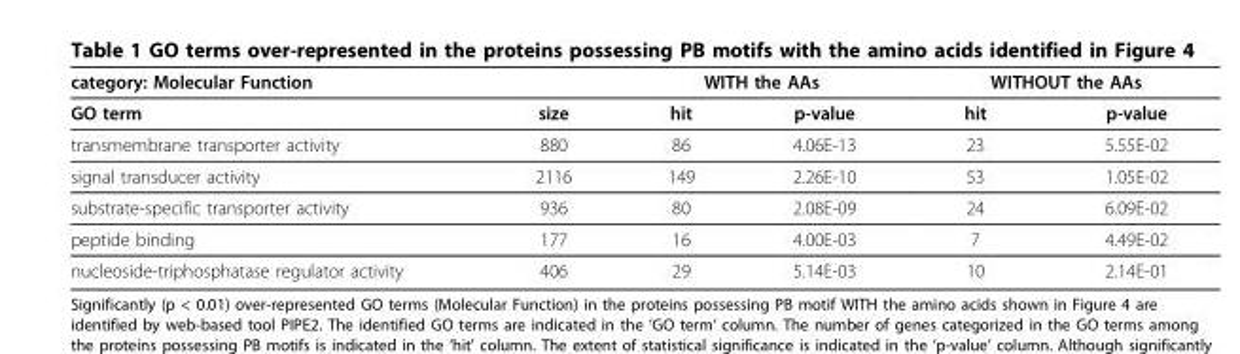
<table><tbody><tr><td>category: Molecular Function</td><td></td><td colspan="2">WITH the AAs</td><td colspan="2">WITHOUT the AAs</td></tr><tr><td>GO term</td><td>size</td><td>hit</td><td>p-value</td><td>hit</td><td>p-value</td></tr><tr><td>transmembrane transporter activity</td><td>880</td><td>86</td><td>4.06E-13</td><td>23</td><td>5.55E-02</td></tr><tr><td>signal transducer activity</td><td>2116</td><td>149</td><td>2.26E-10</td><td>53</td><td>1.05E-02</td></tr><tr><td>substrate-specific transporter activity</td><td>936</td><td>80</td><td>2.08E-09</td><td>24</td><td>6.09E-02</td></tr><tr><td>peptide binding</td><td>177</td><td>16</td><td>4.00E-03</td><td>7</td><td>4.49E-02</td></tr><tr><td>nucleoside-triphosphatase regulator activity</td><td>406</td><td>29</td><td>5.14E-03</td><td>10</td><td>2.14E-01</td></tr></tbody></table>